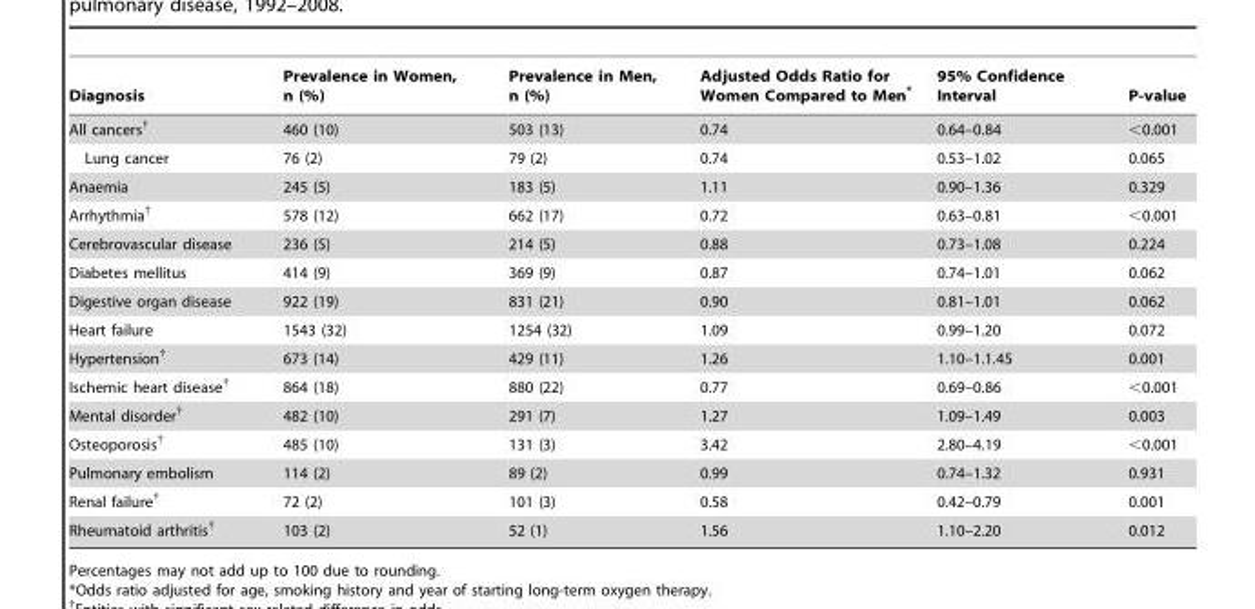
<table><thead><tr><td>Diagnosis</td><td>Prevalence in Women, n (%)</td><td>Prevalence in Men, n (%)</td><td>Adjusted Odds Ratio for Women Compared to Men*</td><td>95% Confidence Interval</td><td>P-value</td></tr></thead><tbody><tr><td>All cancers†</td><td>460 (10)</td><td>503 (13)</td><td>0.74</td><td>0.64–0.84</td><td>&lt;0.001</td></tr><tr><td>Lung cancer</td><td>76 (2)</td><td>79 (2)</td><td>0.74</td><td>0.53–1.02</td><td>0.065</td></tr><tr><td>Anaemia</td><td>245 (5)</td><td>183 (5)</td><td>1.11</td><td>0.90–1.36</td><td>0.329</td></tr><tr><td>Arrhythmia†</td><td>578 (12)</td><td>662 (17)</td><td>0.72</td><td>0.63–0.81</td><td>&lt;0.001</td></tr><tr><td>Cerebrovascular disease</td><td>236 (5)</td><td>214 (5)</td><td>0.88</td><td>0.73–1.08</td><td>0.224</td></tr><tr><td>Diabetes mellitus</td><td>414 (9)</td><td>369 (9)</td><td>0.87</td><td>0.74–1.01</td><td>0.062</td></tr><tr><td>Digestive organ disease</td><td>922 (19)</td><td>831 (21)</td><td>0.90</td><td>0.81–1.01</td><td>0.062</td></tr><tr><td>Heart failure</td><td>1543 (32)</td><td>1254 (32)</td><td>1.09</td><td>0.99–1.20</td><td>0.072</td></tr><tr><td>Hypertension†</td><td>673 (14)</td><td>429 (11)</td><td>1.26</td><td>1.10–1.1.45</td><td>0.001</td></tr><tr><td>Ischemic heart disease†</td><td>864 (18)</td><td>880 (22)</td><td>0.77</td><td>0.69–0.86</td><td>&lt;0.001</td></tr><tr><td>Mental disorder†</td><td>482 (10)</td><td>291 (7)</td><td>1.27</td><td>1.09–1.49</td><td>0.003</td></tr><tr><td>Osteoporosis†</td><td>485 (10)</td><td>131 (3)</td><td>3.42</td><td>2.80–4.19</td><td>&lt;0.001</td></tr><tr><td>Pulmonary embolism</td><td>114 (2)</td><td>89 (2)</td><td>0.99</td><td>0.74–1.32</td><td>0.931</td></tr><tr><td>Renal failure†</td><td>72 (2)</td><td>101 (3)</td><td>0.58</td><td>0.42–0.79</td><td>0.001</td></tr><tr><td>Rheumatoid arthritis†</td><td>103 (2)</td><td>52 (1)</td><td>1.56</td><td>1.10–2.20</td><td>0.012</td></tr></tbody></table>